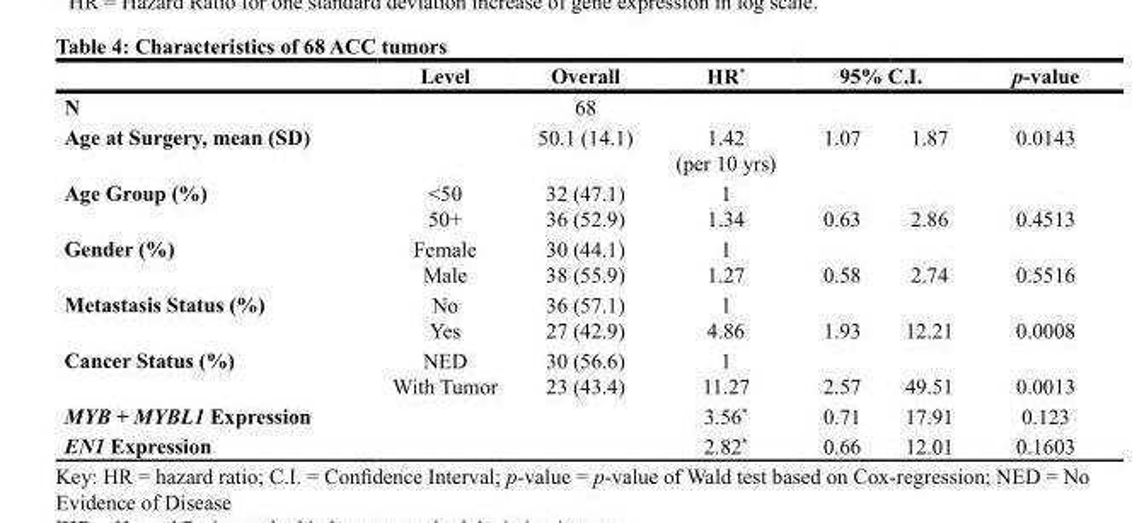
<table><thead><tr><td rowspan="2">N</td><td rowspan="2">Level</td><td rowspan="2">Overall 68</td><td rowspan="2">HR*</td><td colspan="2">95% C.I.</td><td rowspan="2">p-value</td></tr><tr><td></td><td></td></tr></thead><tbody><tr><td>Age at Surgery, mean (SD)</td><td></td><td>50.1 (14.1)</td><td>1.42 (per 10 yrs)</td><td>1.07</td><td>1.87</td><td>0.0143</td></tr><tr><td>Age Group (%)</td><td>&lt;50 50+</td><td>32 (47.1) 36 (52.9)</td><td>1 1.34</td><td>0.63</td><td>2.86</td><td>0.4513</td></tr><tr><td>Gender (%)</td><td>Female Male</td><td>30 (44.1) 38 (55.9)</td><td>1 1.27</td><td>0.58</td><td>2.74</td><td>0.5516</td></tr><tr><td>Metastasis Status (%)</td><td>No Yes</td><td>36 (57.1) 27 (42.9)</td><td>1 4.86</td><td>1.93</td><td>12.21</td><td>0.0008</td></tr><tr><td>Cancer Status (%)</td><td>NED With Tumor</td><td>30 (56.6) 23 (43.4)</td><td>1 11.27</td><td>2.57</td><td>49.51</td><td>0.0013</td></tr><tr><td>MYB + MYBL1 Expression</td><td></td><td></td><td>3.56*</td><td>0.71</td><td>17.91</td><td>0.123</td></tr><tr><td>EN1 Expression</td><td></td><td></td><td>2.82*</td><td>0.66</td><td>12.01</td><td>0.1603</td></tr></tbody></table>